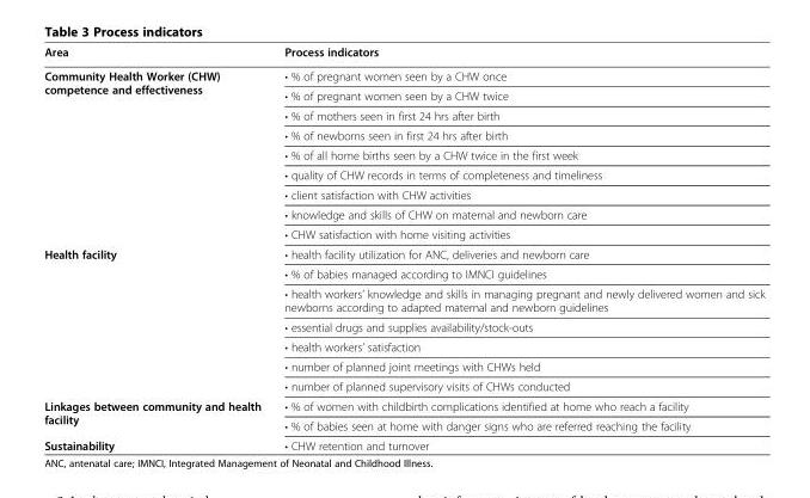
<table><thead><tr><td>Area</td><td>Process indicators</td></tr></thead><tbody><tr><td rowspan="9">Community Health Worker (CHW) competence and effectiveness</td><td>• % of pregnant women seen by a CHW once</td></tr><tr><td>• % of pregnant women seen by a CHW twice</td></tr><tr><td>• % of mothers seen in first 24 hrs after birth</td></tr><tr><td>• % of newborns seen in first 24 hrs after birth</td></tr><tr><td>• % of all home births seen by a CHW twice in the first week</td></tr><tr><td>• quality of CHW records in terms of completeness and timeliness</td></tr><tr><td>• client satisfaction with CHW activities</td></tr><tr><td>• knowledge and skills of CHW on maternal and newborn care</td></tr><tr><td>• CHW satisfaction with home visiting activities</td></tr><tr><td rowspan="7">Health facility</td><td>• health facility utilization for ANC, deliveries and newborn care</td></tr><tr><td>• % of babies managed according to IMNCI guidelines</td></tr><tr><td>• health workers’ knowledge and skills in managing pregnant and newly delivered women and sick newborns according to adapted maternal and newborn guidelines</td></tr><tr><td>• essential drugs and supplies availability/stock-outs</td></tr><tr><td>• health workers’ satisfaction</td></tr><tr><td>• number of planned joint meetings with CHWs held</td></tr><tr><td>• number of planned supervisory visits of CHWs conducted</td></tr><tr><td rowspan="2">Linkages between community and health facility</td><td>• % of women with childbirth complications identified at home who reach a facility</td></tr><tr><td>• % of babies seen at home with danger signs who are referred reaching the facility</td></tr><tr><td>Sustainability</td><td>• CHW retention and turnover</td></tr></tbody></table>